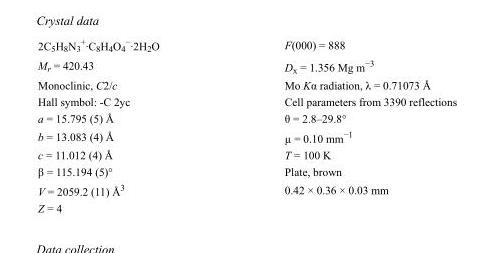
<table><tbody><tr><td>2C<sub>5</sub>H<sub>8</sub>N<sub>3</sub> <sup>+</sup>·C<sub>8</sub>H<sub>4</sub>O<sub>4</sub> <sup>−</sup>·2H<sub>2</sub>O</td><td>F(000) = 888</td></tr><tr><td>M<sub>r</sub> = 420.43</td><td>D<sub>x</sub> = 1.356 Mg m<sup>−3</sup></td></tr><tr><td>Monoclinic, C2/c</td><td>Mo Kα radiation, λ = 0.71073 Å</td></tr><tr><td>Hall symbol: -C 2yc</td><td>Cell parameters from 3390 reflections</td></tr><tr><td>a = 15.795 (5) Å</td><td>θ = 2.8–29.8°</td></tr><tr><td>b = 13.083 (4) Å</td><td>µ = 0.10 mm<sup>−1</sup></td></tr><tr><td>c = 11.012 (4) Å</td><td>T = 100 K</td></tr><tr><td>β = 115.194 (5)°</td><td>Plate, brown</td></tr><tr><td>V = 2059.2 (11) Å<sup>3</sup></td><td>0.42 × 0.36 × 0.03 mm</td></tr><tr><td>Z = 4</td><td></td></tr></tbody></table>